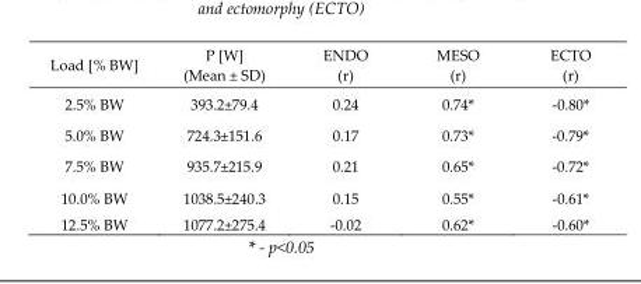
<table><thead><tr><td>Load [% BW]</td><td>P [W] (Mean ± SD)</td><td>ENDO (r)</td><td>MESO (r)</td><td>ECTO (r)</td></tr></thead><tbody><tr><td>2.5% BW</td><td>393.2±79.4</td><td>0.24</td><td>0.74*</td><td>-0.80*</td></tr><tr><td>5.0% BW</td><td>724.3±151.6</td><td>0.17</td><td>0.73*</td><td>-0.79*</td></tr><tr><td>7.5% BW</td><td>935.7±215.9</td><td>0.21</td><td>0.65*</td><td>-0.72*</td></tr><tr><td>10.0% BW</td><td>1038.5±240.3</td><td>0.15</td><td>0.55*</td><td>-0.61*</td></tr><tr><td>12.5% BW</td><td>1077.2±275.4</td><td>-0.02</td><td>0.62*</td><td>-0.60*</td></tr></tbody></table>